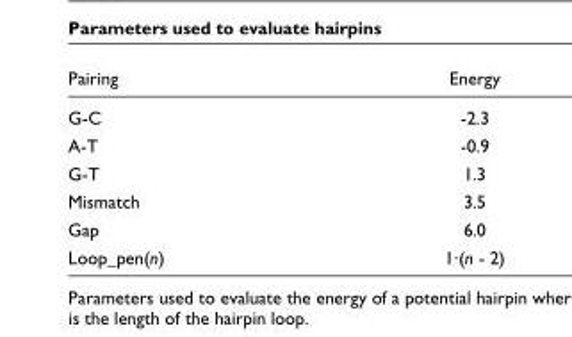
<table><thead><tr><td>Pairing</td><td>Energy</td></tr></thead><tbody><tr><td>G-C</td><td>-2.3</td></tr><tr><td>A-T</td><td>-0.9</td></tr><tr><td>G-T</td><td>1.3</td></tr><tr><td>Mismatch</td><td>3.5</td></tr><tr><td>Gap</td><td>6.0</td></tr><tr><td>Loop_pen(n)</td><td>1·(n - 2)</td></tr></tbody></table>